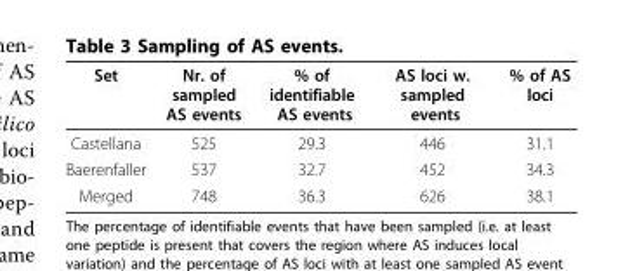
<table><thead><tr><td>Set</td><td>Nr. of sampled AS events</td><td>% of identifiable AS events</td><td>AS loci w. sampled events</td><td>% of AS loci</td></tr></thead><tbody><tr><td>Castellana</td><td>525</td><td>29.3</td><td>446</td><td>31.1</td></tr><tr><td>Baerenfaller</td><td>537</td><td>32.7</td><td>452</td><td>34.3</td></tr><tr><td>Merged</td><td>748</td><td>36.3</td><td>626</td><td>38.1</td></tr></tbody></table>